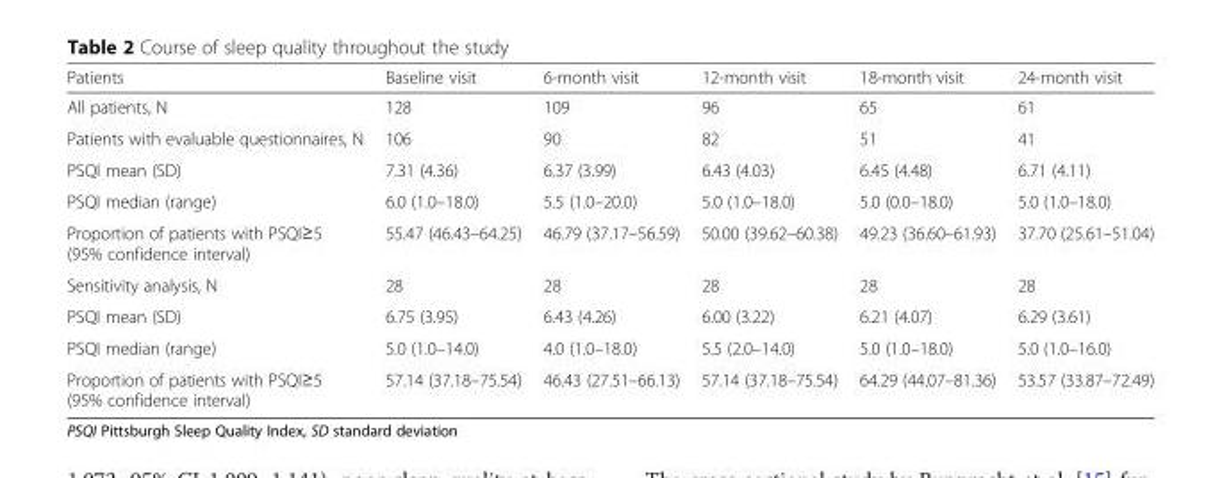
<table><thead><tr><td>Patients</td><td>Baseline visit</td><td>6-month visit</td><td>12-month visit</td><td>18-month visit</td><td>24-month visit</td></tr></thead><tbody><tr><td>All patients, N</td><td>128</td><td>109</td><td>96</td><td>65</td><td>61</td></tr><tr><td>Patients with evaluable questionnaires, N</td><td>106</td><td>90</td><td>82</td><td>51</td><td>41</td></tr><tr><td>PSQI mean (SD)</td><td>7.31 (4.36)</td><td>6.37 (3.99)</td><td>6.43 (4.03)</td><td>6.45 (4.48)</td><td>6.71 (4.11)</td></tr><tr><td>PSQI median (range)</td><td>6.0 (1.0–18.0)</td><td>5.5 (1.0–20.0)</td><td>5.0 (1.0–18.0)</td><td>5.0 (0.0–18.0)</td><td>5.0 (1.0–18.0)</td></tr><tr><td>Proportion of patients with PSQI≥5 (95% confidence interval)</td><td>55.47 (46.43–64.25)</td><td>46.79 (37.17–56.59)</td><td>50.00 (39.62–60.38)</td><td>49.23 (36.60–61.93)</td><td>37.70 (25.61–51.04)</td></tr><tr><td>Sensitivity analysis, N</td><td>28</td><td>28</td><td>28</td><td>28</td><td>28</td></tr><tr><td>PSQI mean (SD)</td><td>6.75 (3.95)</td><td>6.43 (4.26)</td><td>6.00 (3.22)</td><td>6.21 (4.07)</td><td>6.29 (3.61)</td></tr><tr><td>PSQI median (range)</td><td>5.0 (1.0–14.0)</td><td>4.0 (1.0–18.0)</td><td>5.5 (2.0–14.0)</td><td>5.0 (1.0–18.0)</td><td>5.0 (1.0–16.0)</td></tr><tr><td>Proportion of patients with PSQI≥5 (95% confidence interval)</td><td>57.14 (37.18–75.54)</td><td>46.43 (27.51–66.13)</td><td>57.14 (37.18–75.54)</td><td>64.29 (44.07–81.36)</td><td>53.57 (33.87–72.49)</td></tr></tbody></table>